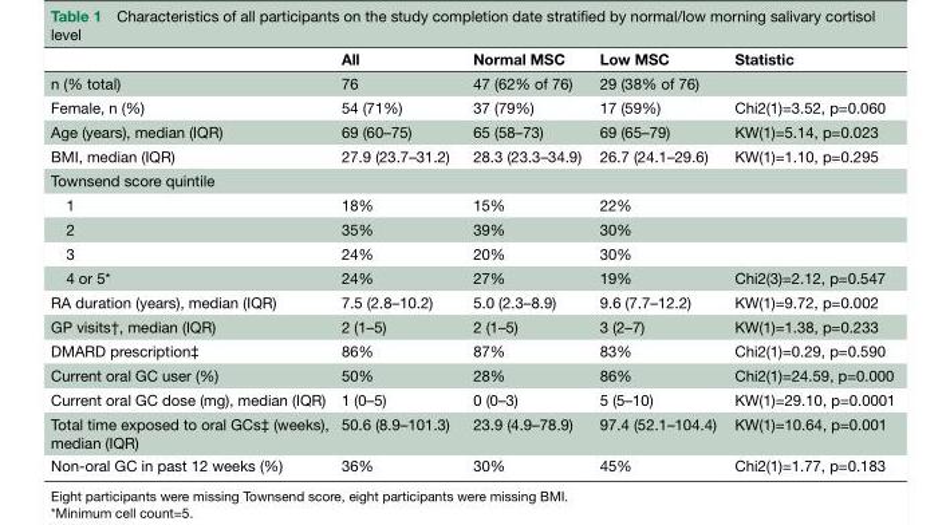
<table><thead><tr><td></td><td>All</td><td>Normal MSC</td><td>Low MSC</td><td>Statistic</td></tr></thead><tbody><tr><td>n (% total)</td><td>76</td><td>47 (62% of 76)</td><td>29 (38% of 76)</td><td></td></tr><tr><td>Female, n (%)</td><td>54 (71%)</td><td>37 (79%)</td><td>17 (59%)</td><td>Chi2(1)=3.52, p=0.060</td></tr><tr><td>Age (years), median (IQR)</td><td>69 (60–75)</td><td>65 (58–73)</td><td>69 (65–79)</td><td>KW(1)=5.14, p=0.023</td></tr><tr><td>BMI, median (IQR)</td><td>27.9 (23.7–31.2)</td><td>28.3 (23.3–34.9)</td><td>26.7 (24.1–29.6)</td><td>KW(1)=1.10, p=0.295</td></tr><tr><td colspan="5">Townsend score quintile</td></tr><tr><td>1</td><td>18%</td><td>15%</td><td>22%</td><td></td></tr><tr><td>2</td><td>35%</td><td>39%</td><td>30%</td><td></td></tr><tr><td>3</td><td>24%</td><td>20%</td><td>30%</td><td></td></tr><tr><td>4 or 5*</td><td>24%</td><td>27%</td><td>19%</td><td>Chi2(3)=2.12, p=0.547</td></tr><tr><td>RA duration (years), median (IQR)</td><td>7.5 (2.8–10.2)</td><td>5.0 (2.3–8.9)</td><td>9.6 (7.7–12.2)</td><td>KW(1)=9.72, p=0.002</td></tr><tr><td>GP visits†, median (IQR)</td><td>2 (1–5)</td><td>2 (1–5)</td><td>3 (2–7)</td><td>KW(1)=1.38, p=0.233</td></tr><tr><td>DMARD prescription‡</td><td>86%</td><td>87%</td><td>83%</td><td>Chi2(1)=0.29, p=0.590</td></tr><tr><td>Current oral GC user (%)</td><td>50%</td><td>28%</td><td>86%</td><td>Chi2(1)=24.59, p=0.000</td></tr><tr><td>Current oral GC dose (mg), median (IQR)</td><td>1 (0–5)</td><td>0 (0–3)</td><td>5 (5–10)</td><td>KW(1)=29.10, p=0.0001</td></tr><tr><td>Total time exposed to oral GCs‡ (weeks), median (IQR)</td><td>50.6 (8.9–101.3)</td><td>23.9 (4.9–78.9)</td><td>97.4 (52.1–104.4)</td><td>KW(1)=10.64, p=0.001</td></tr><tr><td>Non-oral GC in past 12 weeks (%)</td><td>36%</td><td>30%</td><td>45%</td><td>Chi2(1)=1.77, p=0.183</td></tr></tbody></table>